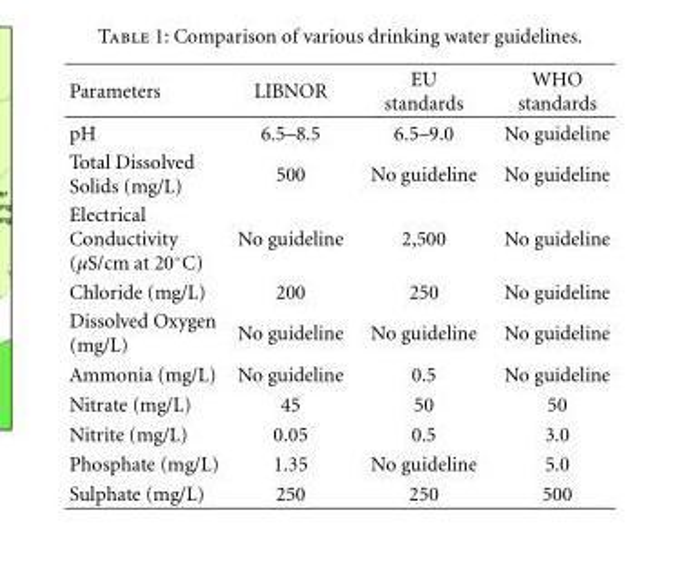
<table><thead><tr><td>Parameters</td><td>LIBNOR</td><td>EU standards</td><td>WHO standards</td></tr></thead><tbody><tr><td>pH</td><td>6.5–8.5</td><td>6.5–9.0</td><td>No guideline</td></tr><tr><td>Total Dissolved Solids (mg/L)</td><td>500</td><td>No guideline</td><td>No guideline</td></tr><tr><td>Electrical Conductivity (µS/cm at 20◦C)</td><td>No guideline</td><td>2,500</td><td>No guideline</td></tr><tr><td>Chloride (mg/L)</td><td>200</td><td>250</td><td>No guideline</td></tr><tr><td>Dissolved Oxygen (mg/L)</td><td>No guideline</td><td>No guideline</td><td>No guideline</td></tr><tr><td>Ammonia (mg/L)</td><td>No guideline</td><td>0.5</td><td>No guideline</td></tr><tr><td>Nitrate (mg/L)</td><td>45</td><td>50</td><td>50</td></tr><tr><td>Nitrite (mg/L)</td><td>0.05</td><td>0.5</td><td>3.0</td></tr><tr><td>Phosphate (mg/L)</td><td>1.35</td><td>No guideline</td><td>5.0</td></tr><tr><td>Sulphate (mg/L)</td><td>250</td><td>250</td><td>500</td></tr></tbody></table>